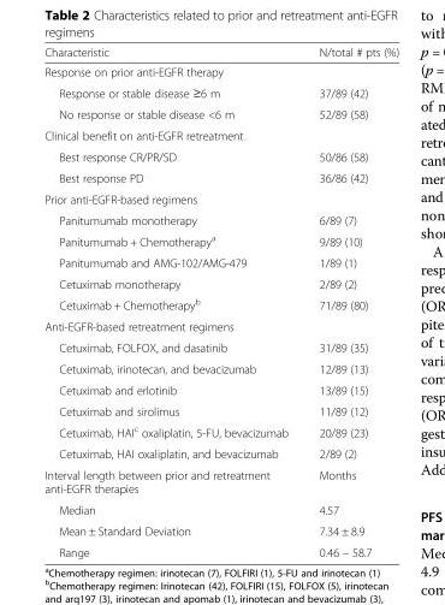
<table><thead><tr><td>Characteristic</td><td>N/total # pts (%)</td></tr></thead><tbody><tr><td colspan="2">Response on prior anti-EGFR therapy</td></tr><tr><td>Response or stable disease ≥6 m</td><td>37/89 (42)</td></tr><tr><td>No response or stable disease &lt;6 m</td><td>52/89 (58)</td></tr><tr><td colspan="2">Clinical benefit on anti-EGFR retreatment</td></tr><tr><td>Best response CR/PR/SD</td><td>50/86 (58)</td></tr><tr><td>Best response PD</td><td>36/86 (42)</td></tr><tr><td colspan="2">Prior anti-EGFR-based regimens</td></tr><tr><td>Panitumumab monotherapy</td><td>6/89 (7)</td></tr><tr><td>Panitumumab + Chemotherapy<sup>a</sup></td><td>9/89 (10)</td></tr><tr><td>Panitumumab and AMG-102/AMG-479</td><td>1/89 (1)</td></tr><tr><td>Cetuximab monotherapy</td><td>2/89 (2)</td></tr><tr><td>Cetuximab + Chemotherapy<sup>b</sup></td><td>71/89 (80)</td></tr><tr><td colspan="2">Anti-EGFR-based retreatment regimens</td></tr><tr><td>Cetuximab, FOLFOX, and dasatinib</td><td>31/89 (35)</td></tr><tr><td>Cetuximab, irinotecan, and bevacizumab</td><td>12/89 (13)</td></tr><tr><td>Cetuximab and erlotinib</td><td>13/89 (15)</td></tr><tr><td>Cetuximab and sirolimus</td><td>11/89 (12)</td></tr><tr><td>Cetuximab, HAI<sup>c</sup> oxaliplatin, 5-FU, bevacizumab</td><td>20/89 (23)</td></tr><tr><td>Cetuximab, HAI oxaliplatin, and bevacizumab</td><td>2/89 (2)</td></tr><tr><td>Interval length between prior and retreatment anti-EGFR therapies</td><td>Months</td></tr><tr><td>Median</td><td>4.57</td></tr><tr><td>Mean ± Standard Deviation</td><td>7.34 ± 8.9</td></tr><tr><td>Range</td><td>0.46 – 58.7</td></tr></tbody></table>